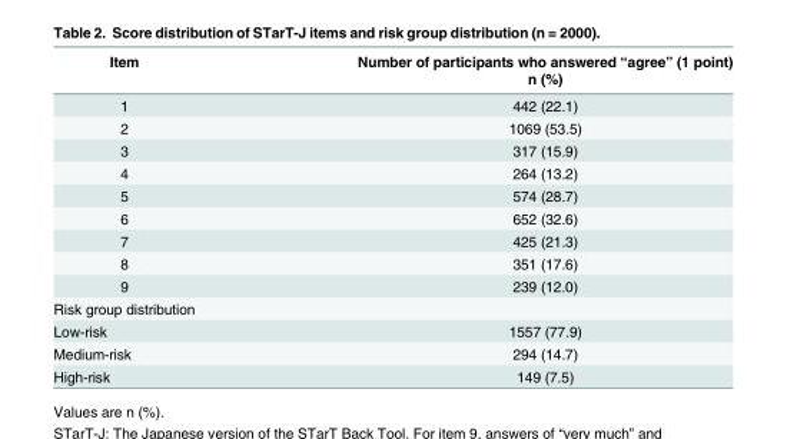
<table><thead><tr><td rowspan="2">Item</td><td rowspan="2">Number of participants who answered “agree” (1 point) n (%)</td></tr><tr></tr></thead><tbody><tr><td>1</td><td>442 (22.1)</td></tr><tr><td>2</td><td>1069 (53.5)</td></tr><tr><td>3</td><td>317 (15.9)</td></tr><tr><td>4</td><td>264 (13.2)</td></tr><tr><td>5</td><td>574 (28.7)</td></tr><tr><td>6</td><td>652 (32.6)</td></tr><tr><td>7</td><td>425 (21.3)</td></tr><tr><td>8</td><td>351 (17.6)</td></tr><tr><td>9</td><td>239 (12.0)</td></tr><tr><td colspan="2">Risk group distribution</td></tr><tr><td>Low-risk</td><td>1557 (77.9)</td></tr><tr><td>Medium-risk</td><td>294 (14.7)</td></tr><tr><td>High-risk</td><td>149 (7.5)</td></tr></tbody></table>